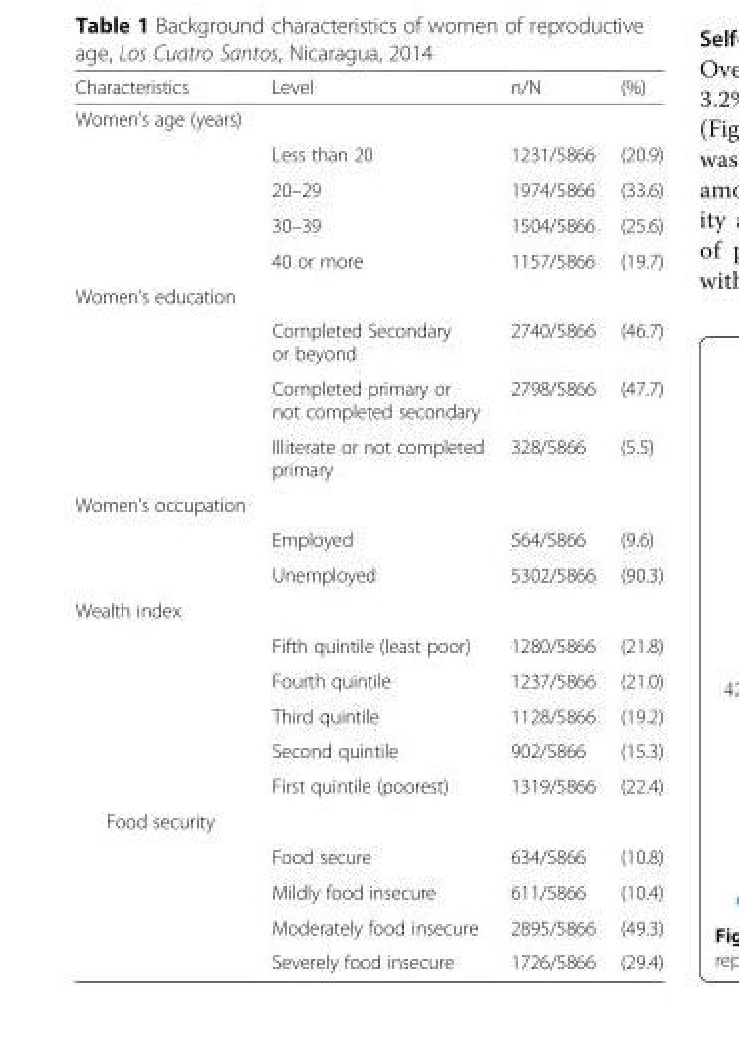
<table><thead><tr><td>Characteristics</td><td>Level</td><td>n/N</td><td>(%)</td></tr></thead><tbody><tr><td colspan="4">Women’s age (years)</td></tr><tr><td></td><td>Less than 20</td><td>1231/5866</td><td>(20.9)</td></tr><tr><td></td><td>20–29</td><td>1974/5866</td><td>(33.6)</td></tr><tr><td></td><td>30–39</td><td>1504/5866</td><td>(25.6)</td></tr><tr><td></td><td>40 or more</td><td>1157/5866</td><td>(19.7)</td></tr><tr><td colspan="4">Women’s education</td></tr><tr><td></td><td>Completed Secondary or beyond</td><td>2740/5866</td><td>(46.7)</td></tr><tr><td></td><td>Completed primary or not completed secondary</td><td>2798/5866</td><td>(47.7)</td></tr><tr><td></td><td>Illiterate or not completed primary</td><td>328/5866</td><td>(5.5)</td></tr><tr><td colspan="4">Women’s occupation</td></tr><tr><td></td><td>Employed</td><td>564/5866</td><td>(9.6)</td></tr><tr><td></td><td>Unemployed</td><td>5302/5866</td><td>(90.3)</td></tr><tr><td colspan="4">Wealth index</td></tr><tr><td></td><td>Fifth quintile (least poor)</td><td>1280/5866</td><td>(21.8)</td></tr><tr><td></td><td>Fourth quintile</td><td>1237/5866</td><td>(21.0)</td></tr><tr><td></td><td>Third quintile</td><td>1128/5866</td><td>(19.2)</td></tr><tr><td></td><td>Second quintile</td><td>902/5866</td><td>(15.3)</td></tr><tr><td></td><td>First quintile (poorest)</td><td>1319/5866</td><td>(22.4)</td></tr><tr><td colspan="4">Food security</td></tr><tr><td></td><td>Food secure</td><td>634/5866</td><td>(10.8)</td></tr><tr><td></td><td>Mildly food insecure</td><td>611/5866</td><td>(10.4)</td></tr><tr><td></td><td>Moderately food insecure</td><td>2895/5866</td><td>(49.3)</td></tr><tr><td></td><td>Severely food insecure</td><td>1726/5866</td><td>(29.4)</td></tr></tbody></table>